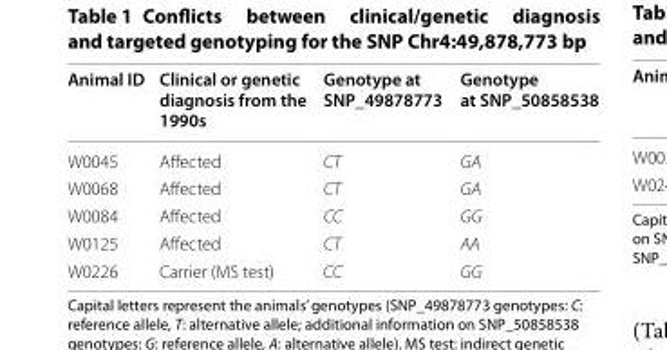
<table><thead><tr><td>Animal ID</td><td>Clinical or genetic diagnosis from the 1990s</td><td>Genotype at SNP_49878773</td><td>Genotype at SNP_50858538</td></tr></thead><tbody><tr><td>W0045</td><td>Affected</td><td>CT</td><td>GA</td></tr><tr><td>W0068</td><td>Affected</td><td>CT</td><td>GA</td></tr><tr><td>W0084</td><td>Affected</td><td>CC</td><td>GG</td></tr><tr><td>W0125</td><td>Affected</td><td>CT</td><td>AA</td></tr><tr><td>W0226</td><td>Carrier (MS test)</td><td>CC</td><td>GG</td></tr></tbody></table>